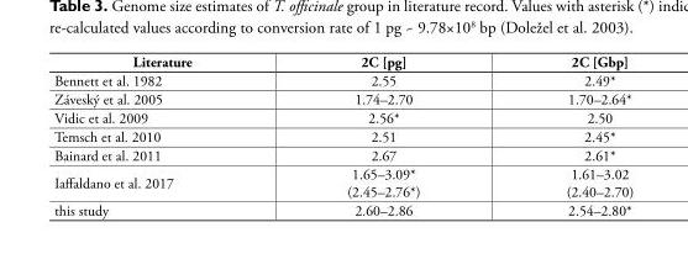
<table><tbody><tr><td>Literature</td><td>2C [pg]</td><td>2C [Gbp]</td></tr><tr><td>Bennett et al. 1982</td><td>2.55</td><td>2.49*</td></tr><tr><td>Záveský et al. 2005</td><td>1.74–2.70</td><td>1.70–2.64*</td></tr><tr><td>Vidic et al. 2009</td><td>2.56*</td><td>2.50</td></tr><tr><td>Temsch et al. 2010</td><td>2.51</td><td>2.45*</td></tr><tr><td>Bainard et al. 2011</td><td>2.67</td><td>2.61*</td></tr><tr><td>Iaffaldano et al. 2017</td><td>1.65–3.09* (2.45–2.76*)</td><td>1.61–3.02 (2.40–2.70)</td></tr><tr><td>this study</td><td>2.60–2.86</td><td>2.54–2.80*</td></tr></tbody></table>